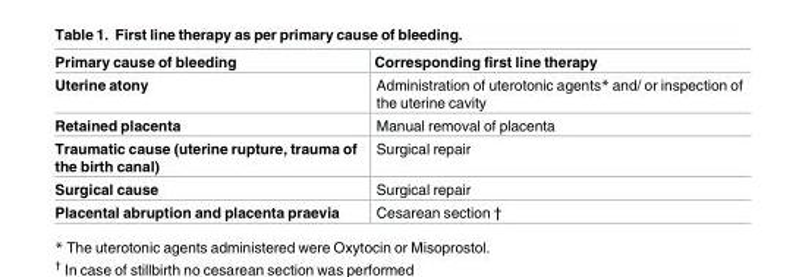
<table><thead><tr><td>Primary cause of bleeding</td><td>Corresponding first line therapy</td></tr></thead><tbody><tr><td>Uterine atony</td><td>Administration of uterotonic agents* and/ or inspection of the uterine cavity</td></tr><tr><td>Retained placenta</td><td>Manual removal of placenta</td></tr><tr><td>Traumatic cause (uterine rupture, trauma of the birth canal)</td><td>Surgical repair</td></tr><tr><td>Surgical cause</td><td>Surgical repair</td></tr><tr><td>Placental abruption and placenta praevia</td><td>Cesarean section †</td></tr></tbody></table>